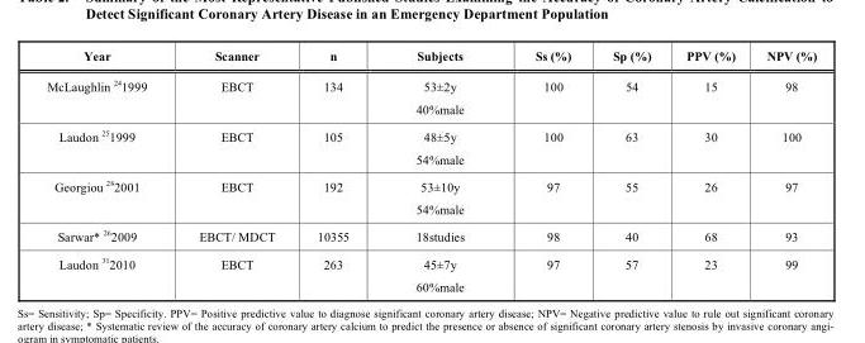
<table><thead><tr><td>Year</td><td>Scanner</td><td>n</td><td>Subjects</td><td>Ss (%)</td><td>Sp (%)</td><td>PPV (%)</td><td>NPV (%)</td></tr></thead><tbody><tr><td>McLaughlin <sup>24</sup>1999</td><td>EBCT</td><td>134</td><td>53±2y 40%male</td><td>100</td><td>54</td><td>15</td><td>98</td></tr><tr><td>Laudon <sup>25</sup>1999</td><td>EBCT</td><td>105</td><td>48±5y 54%male</td><td>100</td><td>63</td><td>30</td><td>100</td></tr><tr><td>Georgiou <sup>28</sup>2001</td><td>EBCT</td><td>192</td><td>53±10y 54%male</td><td>97</td><td>55</td><td>26</td><td>97</td></tr><tr><td>Sarwar* <sup>26</sup>2009</td><td>EBCT/ MDCT</td><td>10355</td><td>18studies</td><td>98</td><td>40</td><td>68</td><td>93</td></tr><tr><td>Laudon <sup>31</sup>2010</td><td>EBCT</td><td>263</td><td>45±7y 60%male</td><td>97</td><td>57</td><td>23</td><td>99</td></tr></tbody></table>